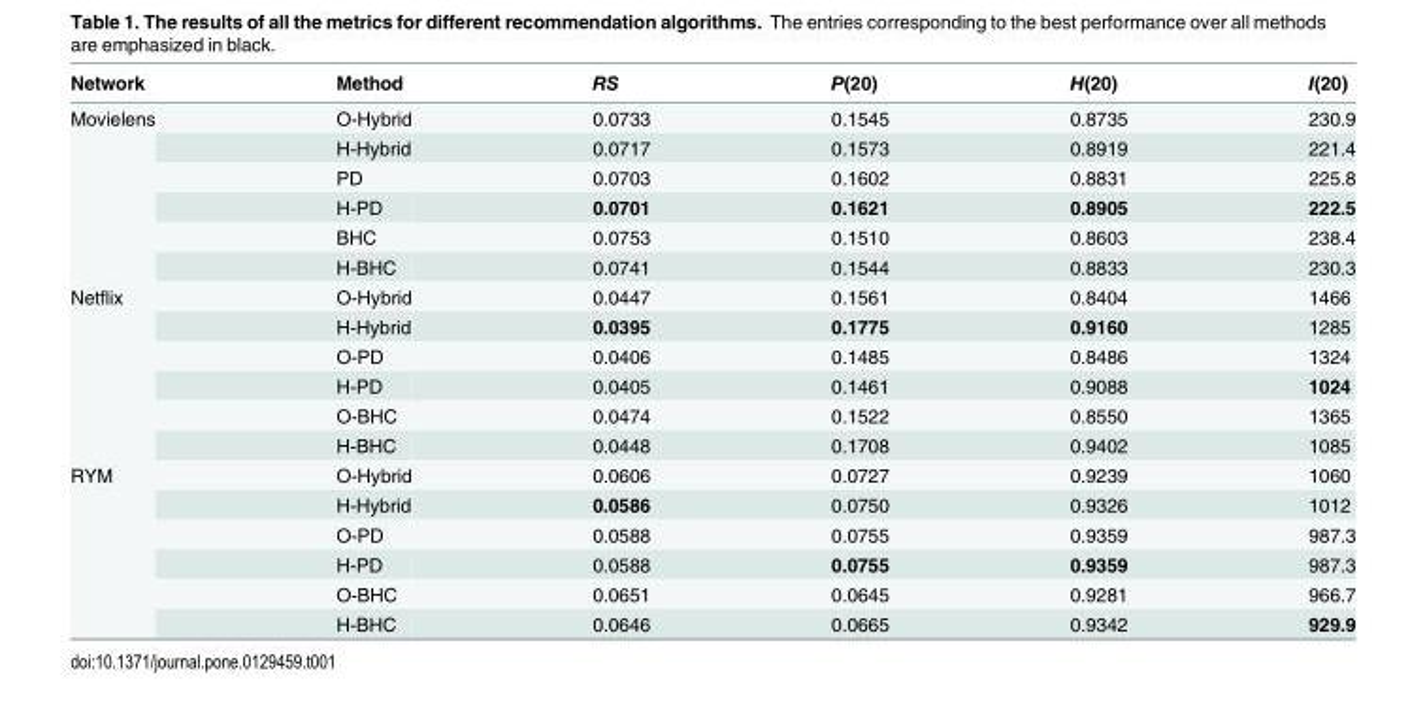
<table><thead><tr><td>Network</td><td>Method</td><td>RS</td><td>P(20)</td><td>H(20)</td><td>I(20)</td></tr></thead><tbody><tr><td rowspan="6">Movielens</td><td>O-Hybrid</td><td>0.0733</td><td>0.1545</td><td>0.8735</td><td>230.9</td></tr><tr><td>H-Hybrid</td><td>0.0717</td><td>0.1573</td><td>0.8919</td><td>221.4</td></tr><tr><td>PD</td><td>0.0703</td><td>0.1602</td><td>0.8831</td><td>225.8</td></tr><tr><td>H-PD</td><td>0.0701</td><td>0.1621</td><td>0.8905</td><td>222.5</td></tr><tr><td>BHC</td><td>0.0753</td><td>0.1510</td><td>0.8603</td><td>238.4</td></tr><tr><td>H-BHC</td><td>0.0741</td><td>0.1544</td><td>0.8833</td><td>230.3</td></tr><tr><td rowspan="6">Netflix</td><td>O-Hybrid</td><td>0.0447</td><td>0.1561</td><td>0.8404</td><td>1466</td></tr><tr><td>H-Hybrid</td><td>0.0395</td><td>0.1775</td><td>0.9160</td><td>1285</td></tr><tr><td>O-PD</td><td>0.0406</td><td>0.1485</td><td>0.8486</td><td>1324</td></tr><tr><td>H-PD</td><td>0.0405</td><td>0.1461</td><td>0.9088</td><td>1024</td></tr><tr><td>O-BHC</td><td>0.0474</td><td>0.1522</td><td>0.8550</td><td>1365</td></tr><tr><td>H-BHC</td><td>0.0448</td><td>0.1708</td><td>0.9402</td><td>1085</td></tr><tr><td rowspan="6">RYM</td><td>O-Hybrid</td><td>0.0606</td><td>0.0727</td><td>0.9239</td><td>1060</td></tr><tr><td>H-Hybrid</td><td>0.0586</td><td>0.0750</td><td>0.9326</td><td>1012</td></tr><tr><td>O-PD</td><td>0.0588</td><td>0.0755</td><td>0.9359</td><td>987.3</td></tr><tr><td>H-PD</td><td>0.0588</td><td>0.0755</td><td>0.9359</td><td>987.3</td></tr><tr><td>O-BHC</td><td>0.0651</td><td>0.0645</td><td>0.9281</td><td>966.7</td></tr><tr><td>H-BHC</td><td>0.0646</td><td>0.0665</td><td>0.9342</td><td>929.9</td></tr></tbody></table>